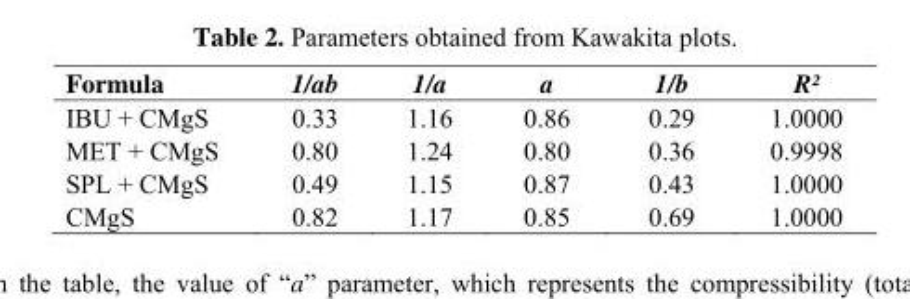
<table><thead><tr><td>Formula</td><td>1/ab</td><td>1/a</td><td>a</td><td>1/b</td><td>R²</td></tr></thead><tbody><tr><td>IBU + CMgS</td><td>0.33</td><td>1.16</td><td>0.86</td><td>0.29</td><td>1.0000</td></tr><tr><td>MET + CMgS</td><td>0.80</td><td>1.24</td><td>0.80</td><td>0.36</td><td>0.9998</td></tr><tr><td>SPL + CMgS</td><td>0.49</td><td>1.15</td><td>0.87</td><td>0.43</td><td>1.0000</td></tr><tr><td>CMgS</td><td>0.82</td><td>1.17</td><td>0.85</td><td>0.69</td><td>1.0000</td></tr></tbody></table>